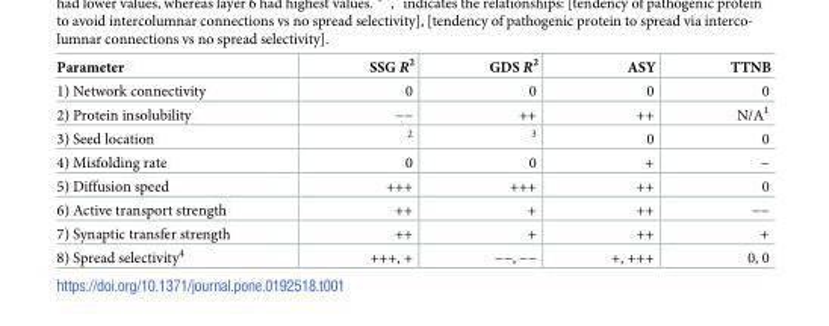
<table><thead><tr><td>Parameter</td><td>SSG R<sup>2</sup></td><td>GDS R<sup>2</sup></td><td>ASY</td><td>TTNB</td></tr></thead><tbody><tr><td>1) Network connectivity</td><td>0</td><td>0</td><td>0</td><td>0</td></tr><tr><td>2) Protein insolubility</td><td>−−</td><td>++</td><td>++</td><td>N/A<sup>1</sup></td></tr><tr><td>3) Seed location</td><td><sup>2</sup></td><td><sup>3</sup></td><td>0</td><td>0</td></tr><tr><td>4) Misfolding rate</td><td>0</td><td>0</td><td>+</td><td>−</td></tr><tr><td>5) Diffusion speed</td><td>+++</td><td>+++</td><td>++</td><td>0</td></tr><tr><td>6) Active transport strength</td><td>++</td><td>+</td><td>++</td><td>−−</td></tr><tr><td>7) Synaptic transfer strength</td><td>++</td><td>+</td><td>++</td><td>+</td></tr><tr><td>8) Spread selectivity<sup>4</sup></td><td>+++, +</td><td>−−, −−</td><td>+, +++</td><td>0, 0</td></tr></tbody></table>